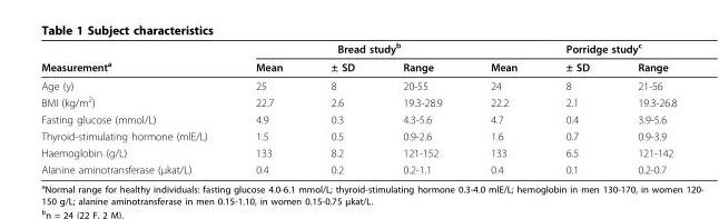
<table><thead><tr><td rowspan="2">Measurement<sup>a</sup></td><td colspan="3">Bread study<sup>b</sup></td><td colspan="3">Porridge study<sup>c</sup></td></tr><tr><td>Mean</td><td>± SD</td><td>Range</td><td>Mean</td><td>± SD</td><td>Range</td></tr></thead><tbody><tr><td>Age (y)</td><td>25</td><td>8</td><td>20-55</td><td>24</td><td>8</td><td>21-56</td></tr><tr><td>BMI (kg/m<sup>2</sup>)</td><td>22.7</td><td>2.6</td><td>19.3-28.9</td><td>22.2</td><td>2.1</td><td>19.3-26.8</td></tr><tr><td>Fasting glucose (mmol/L)</td><td>4.9</td><td>0.3</td><td>4.3-5.6</td><td>4.7</td><td>0.4</td><td>3.9-5.6</td></tr><tr><td>Thyroid-stimulating hormone (mlE/L)</td><td>1.5</td><td>0.5</td><td>0.9-2.6</td><td>1.6</td><td>0.7</td><td>0.9-3.9</td></tr><tr><td>Haemoglobin (g/L)</td><td>133</td><td>8.2</td><td>121-152</td><td>133</td><td>6.5</td><td>121-142</td></tr><tr><td>Alanine aminotransferase (μkat/L)</td><td>0.4</td><td>0.2</td><td>0.2-1.1</td><td>0.4</td><td>0.1</td><td>0.2-0.7</td></tr></tbody></table>